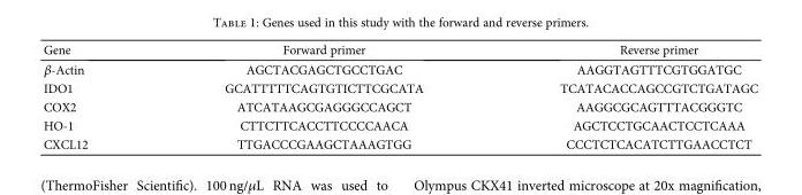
<table><thead><tr><td>Gene</td><td>Forward primer</td><td>Reverse primer</td></tr></thead><tbody><tr><td>β-Actin</td><td>AGCTACGAGCTGCCTGAC</td><td>AAGGTAGTTTCGTGGATGC</td></tr><tr><td>IDO1</td><td>GCATTTTTCAGTGTICTTCGCATA</td><td>TCATACACCAGCCGTCTGATAGC</td></tr><tr><td>COX2</td><td>ATCATAAGCGAGGGCCAGCT</td><td>AAGGCGCAGTTTACGGGTC</td></tr><tr><td>HO-1</td><td>CTTCTTCACCTTCCCCAACA</td><td>AGCTCCTGCAACTCCTCAAA</td></tr><tr><td>CXCL12</td><td>TTGACCCGAAGCTAAAGTGG</td><td>CCCTCTCACATCTTGAACCTCT</td></tr></tbody></table>